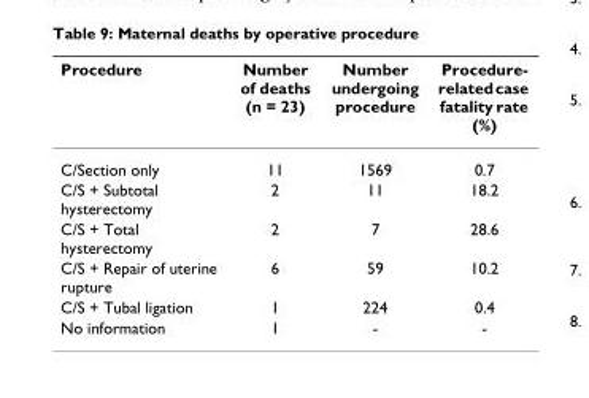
<table><thead><tr><td>Procedure</td><td>Number of deaths (n = 23)</td><td>Number undergoing procedure</td><td>Procedure- related case fatality rate (%)</td></tr></thead><tbody><tr><td>C/Section only</td><td>11</td><td>1569</td><td>0.7</td></tr><tr><td>C/S + Subtotal hysterectomy</td><td>2</td><td>11</td><td>18.2</td></tr><tr><td>C/S + Total hysterectomy</td><td>2</td><td>7</td><td>28.6</td></tr><tr><td>C/S + Repair of uterine rupture</td><td>6</td><td>59</td><td>10.2</td></tr><tr><td>C/S + Tubal ligation</td><td>1</td><td>224</td><td>0.4</td></tr><tr><td>No information</td><td>1</td><td>-</td><td>-</td></tr></tbody></table>